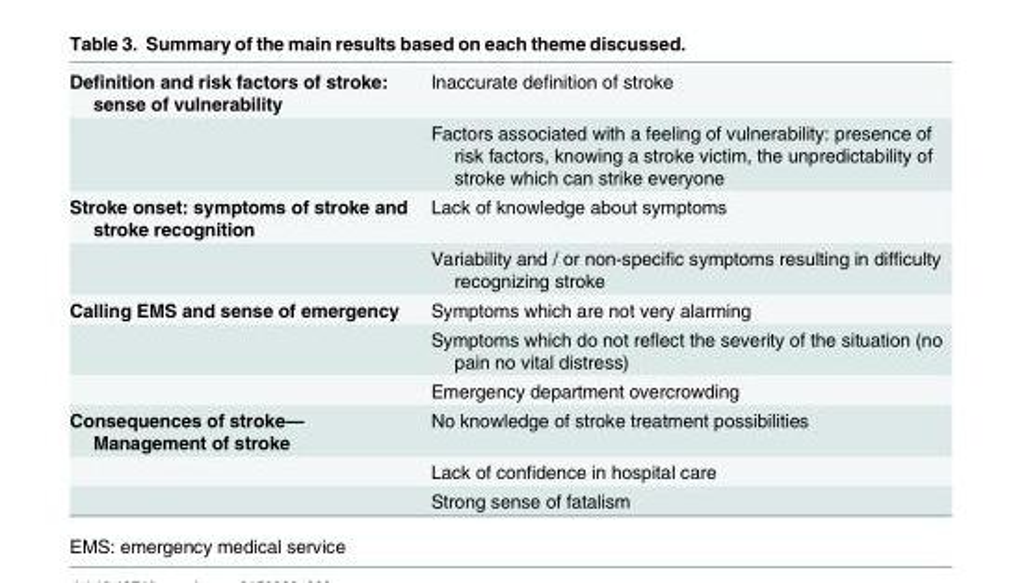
<table><tbody><tr><td rowspan="2">Definition and risk factors of stroke: sense of vulnerability</td><td>Inaccurate definition of stroke</td></tr><tr><td>Factors associated with a feeling of vulnerability: presence of risk factors, knowing a stroke victim, the unpredictability of stroke which can strike everyone</td></tr><tr><td rowspan="2">Stroke onset: symptoms of stroke and stroke recognition</td><td>Lack of knowledge about symptoms</td></tr><tr><td>Variability and / or non-specific symptoms resulting in difficulty recognizing stroke</td></tr><tr><td rowspan="3">Calling EMS and sense of emergency</td><td>Symptoms which are not very alarming</td></tr><tr><td>Symptoms which do not reflect the severity of the situation (no pain no vital distress)</td></tr><tr><td>Emergency department overcrowding</td></tr><tr><td rowspan="3">Consequences of stroke— Management of stroke</td><td>No knowledge of stroke treatment possibilities</td></tr><tr><td>Lack of confidence in hospital care</td></tr><tr><td>Strong sense of fatalism</td></tr></tbody></table>